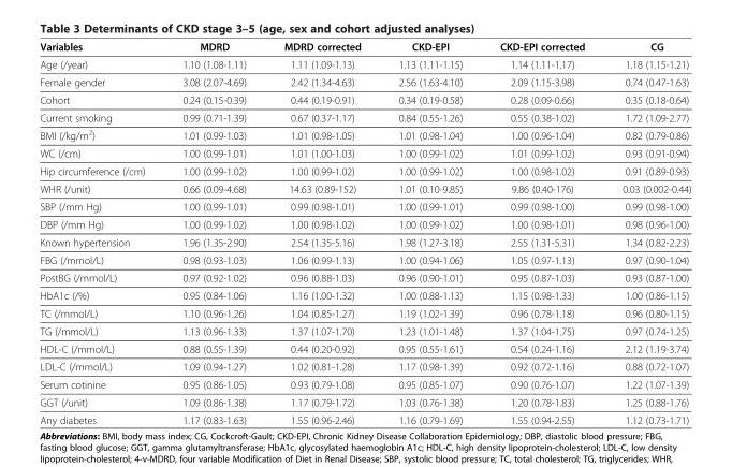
<table><thead><tr><td>Variables</td><td>MDRD</td><td>MDRD corrected</td><td>CKD-EPI</td><td>CKD-EPI corrected</td><td>CG</td></tr></thead><tbody><tr><td>Age (/year)</td><td>1.10 (1.08-1.11)</td><td>1.11 (1.09-1.13)</td><td>1.13 (1.11-1.15)</td><td>1.14 (1.11-1.17)</td><td>1.18 (1.15-1.21)</td></tr><tr><td>Female gender</td><td>3.08 (2.07-4.69)</td><td>2.42 (1.34-4.63)</td><td>2.56 (1.63-4.10)</td><td>2.09 (1.15-3.98)</td><td>0.74 (0.47-1.63)</td></tr><tr><td>Cohort</td><td>0.24 (0.15-0.39)</td><td>0.44 (0.19-0.91)</td><td>0.34 (0.19-0.58)</td><td>0.28 (0.09-0.66)</td><td>0.35 (0.18-0.64)</td></tr><tr><td>Current smoking</td><td>0.99 (0.71-1.39)</td><td>0.67 (0.37-1.17)</td><td>0.84 (0.55-1.26)</td><td>0.55 (0.38-1.02)</td><td>1.72 (1.09-2.77)</td></tr><tr><td>BMI (/kg/m<sup>2</sup>)</td><td>1.01 (0.99-1.03)</td><td>1.01 (0.98-1.05)</td><td>1.01 (0.98-1.04)</td><td>1.00 (0.96-1.04)</td><td>0.82 (0.79-0.86)</td></tr><tr><td>WC (/cm)</td><td>1.00 (0.99-1.01)</td><td>1.01 (1.00-1.03)</td><td>1.00 (0.99-1.02)</td><td>1.01 (0.99-1.02)</td><td>0.93 (0.91-0.94)</td></tr><tr><td>Hip circumference (/cm)</td><td>1.00 (0.99-1.02)</td><td>1.00 (0.99-1.02)</td><td>1.00 (0.99-1.02)</td><td>1.00 (0.98-1.02)</td><td>0.91 (0.89-0.93)</td></tr><tr><td>WHR (/unit)</td><td>0.66 (0.09-4.68)</td><td>14.63 (0.89-152)</td><td>1.01 (0.10-9.85)</td><td>9.86 (0.40-176)</td><td>0.03 (0.002-0.44)</td></tr><tr><td>SBP (/mm Hg)</td><td>1.00 (0.99-1.01)</td><td>0.99 (0.98-1.01)</td><td>1.00 (0.99-1.01)</td><td>0.99 (0.98-1.00)</td><td>0.99 (0.98-1.00)</td></tr><tr><td>DBP (/mm Hg)</td><td>1.00 (0.99-1.02)</td><td>1.00 (0.98-1.02)</td><td>1.00 (0.99-1.02)</td><td>1.00 (0.98-1.01)</td><td>0.98 (0.96-1.00)</td></tr><tr><td>Known hypertension</td><td>1.96 (1.35-2.90)</td><td>2.54 (1.35-5.16)</td><td>1.98 (1.27-3.18)</td><td>2.55 (1.31-5.31)</td><td>1.34 (0.82-2.23)</td></tr><tr><td>FBG (/mmol/L)</td><td>0.98 (0.93-1.03)</td><td>1.06 (0.99-1.13)</td><td>1.00 (0.94-1.06)</td><td>1.05 (0.97-1.13)</td><td>0.97 (0.90-1.04)</td></tr><tr><td>PostBG (/mmol/L)</td><td>0.97 (0.92-1.02)</td><td>0.96 (0.88-1.03)</td><td>0.96 (0.90-1.01)</td><td>0.95 (0.87-1.03)</td><td>0.93 (0.87-1.00)</td></tr><tr><td>HbA1c (/%)</td><td>0.95 (0.84-1.06)</td><td>1.16 (1.00-1.32)</td><td>1.00 (0.88-1.13)</td><td>1.15 (0.98-1.33)</td><td>1.00 (0.86-1.15)</td></tr><tr><td>TC (/mmol/L)</td><td>1.10 (0.96-1.26)</td><td>1.04 (0.85-1.27)</td><td>1.19 (1.02-1.39)</td><td>0.96 (0.78-1.18)</td><td>0.96 (0.80-1.15)</td></tr><tr><td>TG (/mmol/L)</td><td>1.13 (0.96-1.33)</td><td>1.37 (1.07-1.70)</td><td>1.23 (1.01-1.48)</td><td>1.37 (1.04-1.75)</td><td>0.97 (0.74-1.25)</td></tr><tr><td>HDL-C (/mmol/L)</td><td>0.88 (0.55-1.39)</td><td>0.44 (0.20-0.92)</td><td>0.95 (0.55-1.61)</td><td>0.54 (0.24-1.16)</td><td>2.12 (1.19-3.74)</td></tr><tr><td>LDL-C (/mmol/L)</td><td>1.09 (0.94-1.27)</td><td>1.02 (0.81-1.28)</td><td>1.17 (0.98-1.39)</td><td>0.92 (0.72-1.16)</td><td>0.88 (0.72-1.07)</td></tr><tr><td>Serum cotinine</td><td>0.95 (0.86-1.05)</td><td>0.93 (0.79-1.08)</td><td>0.95 (0.85-1.07)</td><td>0.90 (0.76-1.07)</td><td>1.22 (1.07-1.39)</td></tr><tr><td>GGT (/unit)</td><td>1.09 (0.86-1.38)</td><td>1.17 (0.79-1.72)</td><td>1.03 (0.76-1.38)</td><td>1.20 (0.78-1.83)</td><td>1.25 (0.88-1.76)</td></tr><tr><td>Any diabetes</td><td>1.17 (0.83-1.63)</td><td>1.55 (0.96-2.46)</td><td>1.16 (0.79-1.69)</td><td>1.55 (0.94-2.55)</td><td>1.12 (0.73-1.71)</td></tr></tbody></table>